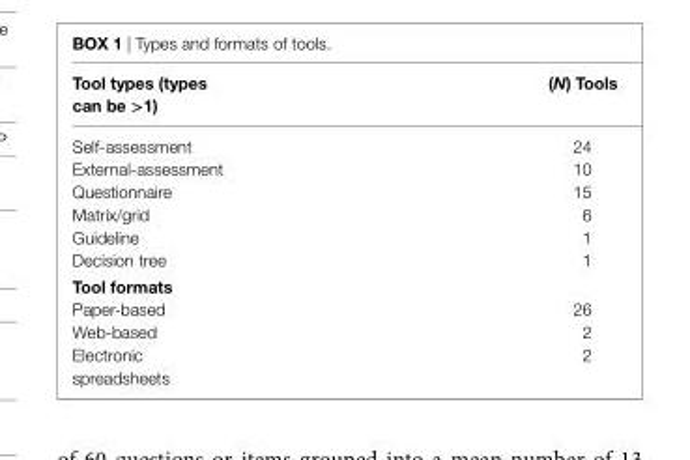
<table><thead><tr><td>Tool types (types can be &gt;1)</td><td>(N) Tools</td></tr></thead><tbody><tr><td>Self-assessment</td><td>24</td></tr><tr><td>External-assessment</td><td>10</td></tr><tr><td>Questionnaire</td><td>15</td></tr><tr><td>Matrix/grid</td><td>6</td></tr><tr><td>Guideline</td><td>1</td></tr><tr><td>Decision tree</td><td>1</td></tr><tr><td colspan="2">Tool formats</td></tr><tr><td>Paper-based</td><td>26</td></tr><tr><td>Web-based</td><td>2</td></tr><tr><td>Electronic spreadsheets</td><td>2</td></tr></tbody></table>